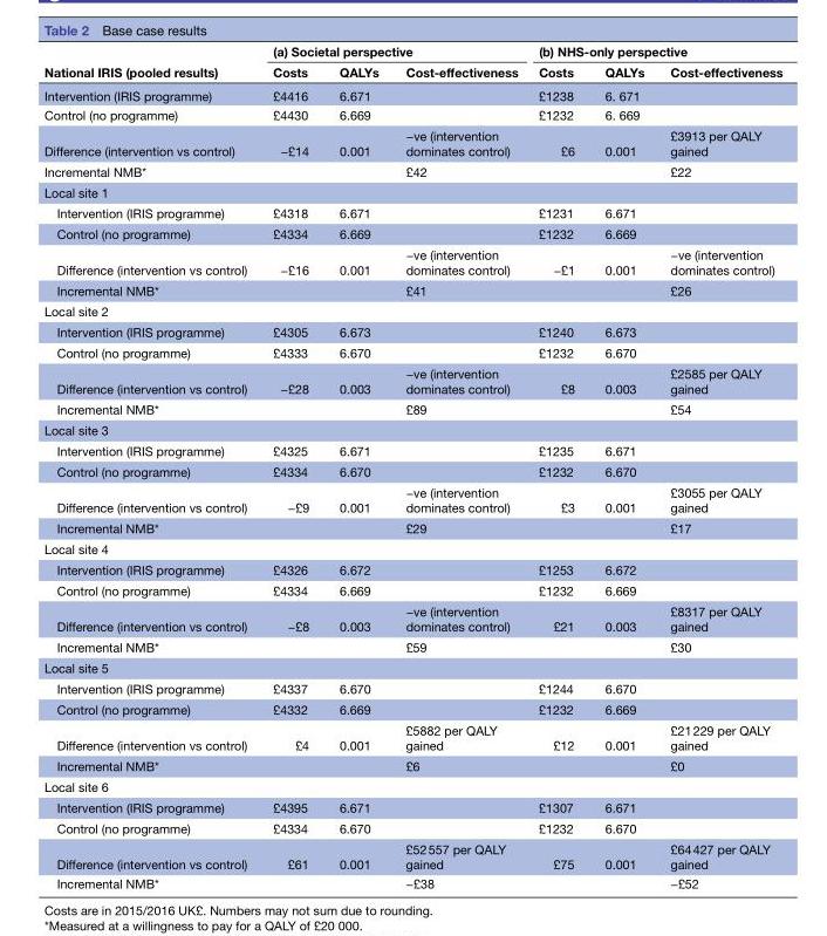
<table><thead><tr><td rowspan="2">National IRIS (pooled results)</td><td colspan="3">(a) Societal perspective</td><td colspan="3">(b) NHS-only perspective</td></tr><tr><td>Costs</td><td>QALYs</td><td>Cost-effectiveness</td><td>Costs</td><td>QALYs</td><td>Cost-effectiveness</td></tr></thead><tbody><tr><td>Intervention (IRIS programme)</td><td>£4416</td><td>6.671</td><td></td><td>£1238</td><td>6. 671</td><td></td></tr><tr><td>Control (no programme)</td><td>£4430</td><td>6.669</td><td></td><td>£1232</td><td>6. 669</td><td></td></tr><tr><td>Difference (intervention vs control)</td><td>−£14</td><td>0.001</td><td>−ve (intervention dominates control)</td><td>£6</td><td>0.001</td><td>£3913 per QALY gained</td></tr><tr><td>Incremental NMB*</td><td></td><td></td><td>£42</td><td></td><td></td><td>£22</td></tr><tr><td colspan="7">Local site 1</td></tr><tr><td>Intervention (IRIS programme)</td><td>£4318</td><td>6.671</td><td></td><td>£1231</td><td>6.671</td><td></td></tr><tr><td>Control (no programme)</td><td>£4334</td><td>6.669</td><td></td><td>£1232</td><td>6.669</td><td></td></tr><tr><td>Difference (intervention vs control)</td><td>−£16</td><td>0.001</td><td>−ve (intervention dominates control)</td><td>−£1</td><td>0.001</td><td>−ve (intervention dominates control)</td></tr><tr><td>Incremental NMB*</td><td></td><td></td><td>£41</td><td></td><td></td><td>£26</td></tr><tr><td colspan="7">Local site 2</td></tr><tr><td>Intervention (IRIS programme)</td><td>£4305</td><td>6.673</td><td></td><td>£1240</td><td>6.673</td><td></td></tr><tr><td>Control (no programme)</td><td>£4333</td><td>6.670</td><td></td><td>£1232</td><td>6.670</td><td></td></tr><tr><td>Difference (intervention vs control)</td><td>−£28</td><td>0.003</td><td>−ve (intervention dominates control)</td><td>£8</td><td>0.003</td><td>£2585 per QALY gained</td></tr><tr><td>Incremental NMB*</td><td></td><td></td><td>£89</td><td></td><td></td><td>£54</td></tr><tr><td colspan="7">Local site 3</td></tr><tr><td>Intervention (IRIS programme)</td><td>£4325</td><td>6.671</td><td></td><td>£1235</td><td>6.671</td><td></td></tr><tr><td>Control (no programme)</td><td>£4334</td><td>6.670</td><td></td><td>£1232</td><td>6.670</td><td></td></tr><tr><td>Difference (intervention vs control)</td><td>−£9</td><td>0.001</td><td>−ve (intervention dominates control)</td><td>£3</td><td>0.001</td><td>£3055 per QALY gained</td></tr><tr><td>Incremental NMB*</td><td></td><td></td><td>£29</td><td></td><td></td><td>£17</td></tr><tr><td colspan="7">Local site 4</td></tr><tr><td>Intervention (IRIS programme)</td><td>£4326</td><td>6.672</td><td></td><td>£1253</td><td>6.672</td><td></td></tr><tr><td>Control (no programme)</td><td>£4334</td><td>6.669</td><td></td><td>£1232</td><td>6.669</td><td></td></tr><tr><td>Difference (intervention vs control)</td><td>−£8</td><td>0.003</td><td>−ve (intervention dominates control)</td><td>£21</td><td>0.003</td><td>£8317 per QALY gained</td></tr><tr><td>Incremental NMB*</td><td></td><td></td><td>£59</td><td></td><td></td><td>£30</td></tr><tr><td colspan="7">Local site 5</td></tr><tr><td>Intervention (IRIS programme)</td><td>£4337</td><td>6.670</td><td></td><td>£1244</td><td>6.670</td><td></td></tr><tr><td>Control (no programme)</td><td>£4332</td><td>6.669</td><td></td><td>£1232</td><td>6.669</td><td></td></tr><tr><td>Difference (intervention vs control)</td><td>£4</td><td>0.001</td><td>£5882 per QALY gained</td><td>£12</td><td>0.001</td><td>£21 229 per QALY gained</td></tr><tr><td>Incremental NMB*</td><td></td><td></td><td>£6</td><td></td><td></td><td>£0</td></tr><tr><td colspan="7">Local site 6</td></tr><tr><td>Intervention (IRIS programme)</td><td>£4395</td><td>6.671</td><td></td><td>£1307</td><td>6.671</td><td></td></tr><tr><td>Control (no programme)</td><td>£4334</td><td>6.670</td><td></td><td>£1232</td><td>6.670</td><td></td></tr><tr><td>Difference (intervention vs control)</td><td>£61</td><td>0.001</td><td>£52 557 per QALY gained</td><td>£75</td><td>0.001</td><td>£64 427 per QALY gained</td></tr><tr><td>Incremental NMB*</td><td></td><td></td><td>−£38</td><td></td><td></td><td>−£52</td></tr></tbody></table>